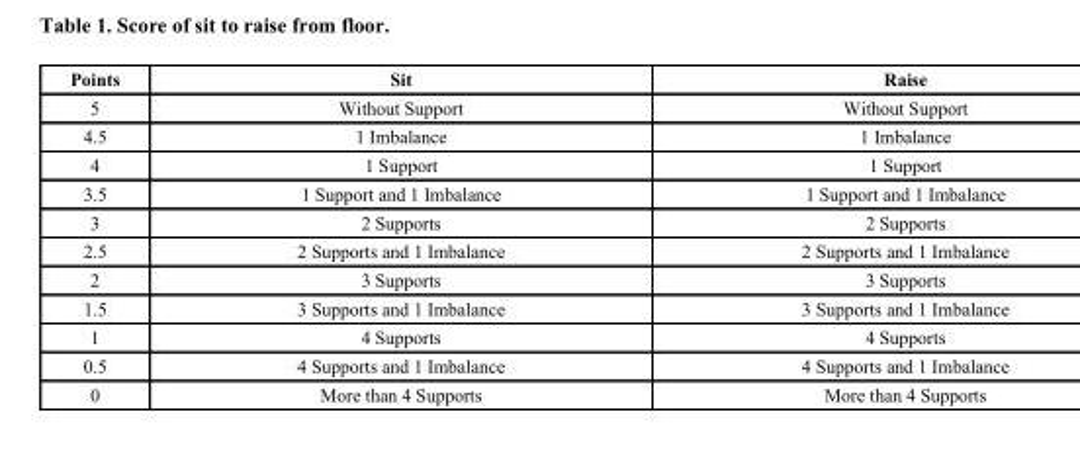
<table><thead><tr><td>Points</td><td>Sit</td><td>Raise</td></tr></thead><tbody><tr><td>5</td><td>Without Support</td><td>Without Support</td></tr><tr><td>4.5</td><td>1 Imbalance</td><td>1 Imbalance</td></tr><tr><td>4</td><td>1 Support</td><td>1 Support</td></tr><tr><td>3.5</td><td>1 Support and 1 Imbalance</td><td>1 Support and 1 Imbalance</td></tr><tr><td>3</td><td>2 Supports</td><td>2 Supports</td></tr><tr><td>2.5</td><td>2 Supports and 1 Imbalance</td><td>2 Supports and 1 Imbalance</td></tr><tr><td>2</td><td>3 Supports</td><td>3 Supports</td></tr><tr><td>1.5</td><td>3 Supports and 1 Imbalance</td><td>3 Supports and 1 Imbalance</td></tr><tr><td>1</td><td>4 Supports</td><td>4 Supports</td></tr><tr><td>0.5</td><td>4 Supports and 1 Imbalance</td><td>4 Supports and 1 Imbalance</td></tr><tr><td>0</td><td>More than 4 Supports</td><td>More than 4 Supports</td></tr></tbody></table>